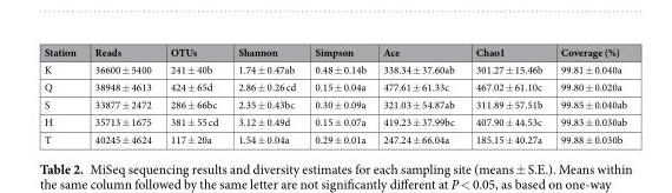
<table><thead><tr><td>Station</td><td>Reads</td><td>OTUs</td><td>Shannon</td><td>Simpson</td><td>Ace</td><td>Chao1</td><td>Coverage (%)</td></tr></thead><tbody><tr><td>K</td><td>36600 ± 5400</td><td>241 ± 40b</td><td>1.74 ± 0.47ab</td><td>0.48 ± 0.14b</td><td>338.34 ± 37.60ab</td><td>301.27 ± 15.46b</td><td>99.81 ± 0.040a</td></tr><tr><td>Q</td><td>38948 ± 4613</td><td>424 ± 65d</td><td>2.86 ± 0.26 cd</td><td>0.15 ± 0.04a</td><td>477.61 ± 61.33c</td><td>467.02 ± 61.10c</td><td>99.80 ± 0.020a</td></tr><tr><td>S</td><td>33877 ± 2472</td><td>286 ± 66bc</td><td>2.35 ± 0.43bc</td><td>0.30 ± 0.09a</td><td>321.03 ± 54.87ab</td><td>311.89 ± 57.51b</td><td>99.85 ± 0.040ab</td></tr><tr><td>H</td><td>35713 ± 1675</td><td>381 ± 55 cd</td><td>3.12 ± 0.49d</td><td>0.15 ± 0.07a</td><td>419.23 ± 37.99bc</td><td>407.90 ± 44.53c</td><td>99.83 ± 0.030ab</td></tr><tr><td>T</td><td>40245 ± 4624</td><td>117 ± 20a</td><td>1.54 ± 0.04a</td><td>0.29 ± 0.01a</td><td>247.24 ± 66.04a</td><td>185.15 ± 40.27a</td><td>99.88 ± 0.030b</td></tr></tbody></table>